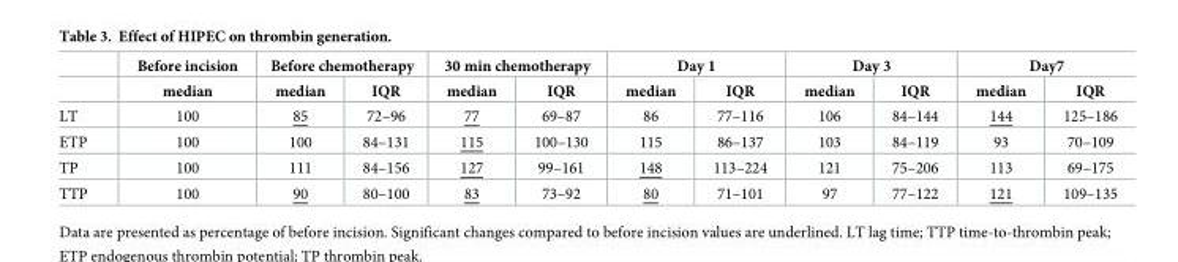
<table><thead><tr><td rowspan="2"></td><td rowspan="2">Before incision median</td><td colspan="2">Before chemotherapy</td><td colspan="2">30 min chemotherapy</td><td colspan="2">Day 1</td><td colspan="2">Day 3</td><td colspan="2">Day7</td></tr><tr><td>median</td><td>IQR</td><td>median</td><td>IQR</td><td>median</td><td>IQR</td><td>median</td><td>IQR</td><td>median</td><td>IQR</td></tr></thead><tbody><tr><td>LT</td><td>100</td><td>85</td><td>72–96</td><td>77</td><td>69–87</td><td>86</td><td>77–116</td><td>106</td><td>84–144</td><td>144</td><td>125–186</td></tr><tr><td>ETP</td><td>100</td><td>100</td><td>84–131</td><td>115</td><td>100–130</td><td>115</td><td>86–137</td><td>103</td><td>84–119</td><td>93</td><td>70–109</td></tr><tr><td>TP</td><td>100</td><td>111</td><td>84–156</td><td>127</td><td>99–161</td><td>148</td><td>113–224</td><td>121</td><td>75–206</td><td>113</td><td>69–175</td></tr><tr><td>TTP</td><td>100</td><td>90</td><td>80–100</td><td>83</td><td>73–92</td><td>80</td><td>71–101</td><td>97</td><td>77–122</td><td>121</td><td>109–135</td></tr></tbody></table>